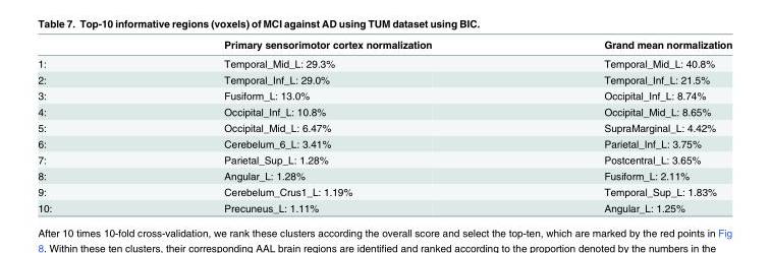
<table><thead><tr><td></td><td>Primary sensorimotor cortex normalization</td><td>Grand mean normalization</td></tr></thead><tbody><tr><td>1:</td><td>Temporal_Mid_L: 29.3%</td><td>Temporal_Mid_L: 40.8%</td></tr><tr><td>2:</td><td>Temporal_Inf_L: 29.0%</td><td>Temporal_Inf_L: 21.5%</td></tr><tr><td>3:</td><td>Fusiform_L: 13.0%</td><td>Occipital_Inf_L: 8.74%</td></tr><tr><td>4:</td><td>Occipital_Inf_L: 10.8%</td><td>Occipital_Mid_L: 8.65%</td></tr><tr><td>5:</td><td>Occipital_Mid_L: 6.47%</td><td>SupraMarginal_L: 4.42%</td></tr><tr><td>6:</td><td>Cerebelum_6_L: 3.41%</td><td>Parietal_Inf_L: 3.75%</td></tr><tr><td>7:</td><td>Parietal_Sup_L: 1.28%</td><td>Postcentral_L: 3.65%</td></tr><tr><td>8:</td><td>Angular_L: 1.28%</td><td>Fusiform_L: 2.11%</td></tr><tr><td>9:</td><td>Cerebelum_Crus1_L: 1.19%</td><td>Temporal_Sup_L: 1.83%</td></tr><tr><td>10:</td><td>Precuneus_L: 1.11%</td><td>Angular_L: 1.25%</td></tr></tbody></table>